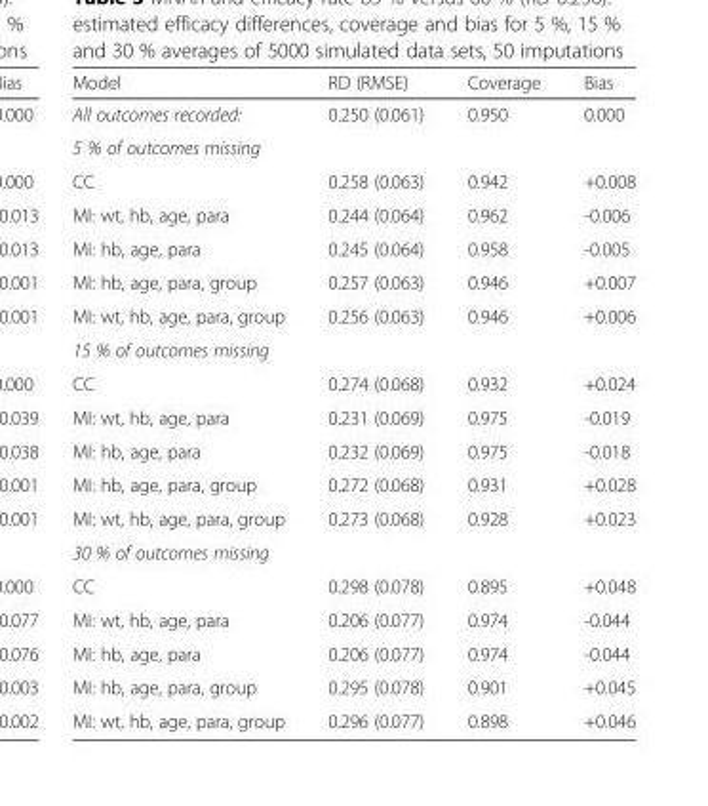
<table><thead><tr><td>Model</td><td>RD (RMSE)</td><td>Coverage</td><td>Bias</td></tr></thead><tbody><tr><td>All outcomes recorded:</td><td>0.250 (0.061)</td><td>0.950</td><td>0.000</td></tr><tr><td colspan="4">5 % of outcomes missing</td></tr><tr><td>CC</td><td>0.258 (0.063)</td><td>0.942</td><td>+0.008</td></tr><tr><td>MI: wt, hb, age, para</td><td>0.244 (0.064)</td><td>0.962</td><td>-0.006</td></tr><tr><td>MI: hb, age, para</td><td>0.245 (0.064)</td><td>0.958</td><td>-0.005</td></tr><tr><td>MI: hb, age, para, group</td><td>0.257 (0.063)</td><td>0.946</td><td>+0.007</td></tr><tr><td>MI: wt, hb, age, para, group</td><td>0.256 (0.063)</td><td>0.946</td><td>+0.006</td></tr><tr><td colspan="4">15 % of outcomes missing</td></tr><tr><td>CC</td><td>0.274 (0.068)</td><td>0.932</td><td>+0.024</td></tr><tr><td>MI: wt, hb, age, para</td><td>0.231 (0.069)</td><td>0.975</td><td>-0.019</td></tr><tr><td>MI: hb, age, para</td><td>0.232 (0.069)</td><td>0.975</td><td>-0.018</td></tr><tr><td>MI: hb, age, para, group</td><td>0.272 (0.068)</td><td>0.931</td><td>+0.028</td></tr><tr><td>MI: wt, hb, age, para, group</td><td>0.273 (0.068)</td><td>0.928</td><td>+0.023</td></tr><tr><td colspan="4">30 % of outcomes missing</td></tr><tr><td>CC</td><td>0.298 (0.078)</td><td>0.895</td><td>+0.048</td></tr><tr><td>MI: wt, hb, age, para</td><td>0.206 (0.077)</td><td>0.974</td><td>-0.044</td></tr><tr><td>MI: hb, age, para</td><td>0.206 (0.077)</td><td>0.974</td><td>-0.044</td></tr><tr><td>MI: hb, age, para, group</td><td>0.295 (0.078)</td><td>0.901</td><td>+0.045</td></tr><tr><td>MI: wt, hb, age, para, group</td><td>0.296 (0.077)</td><td>0.898</td><td>+0.046</td></tr></tbody></table>